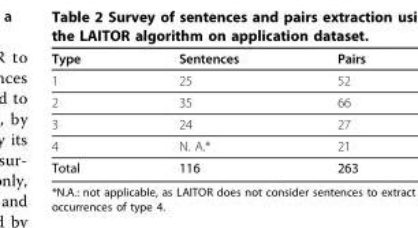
<table><thead><tr><td>Type</td><td>Sentences</td><td>Pairs</td></tr></thead><tbody><tr><td>1</td><td>25</td><td>52</td></tr><tr><td>2</td><td>35</td><td>66</td></tr><tr><td>3</td><td>24</td><td>27</td></tr><tr><td>4</td><td>N. A.*</td><td>21</td></tr><tr><td>Total</td><td>116</td><td>263</td></tr></tbody></table>